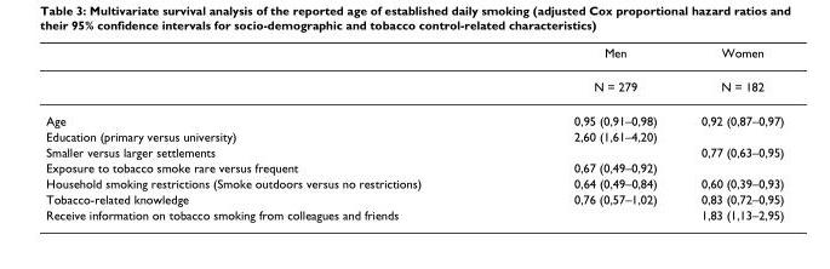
<table><thead><tr><td></td><td>Men</td><td>Women</td></tr></thead><tbody><tr><td></td><td>N = 279</td><td>N = 182</td></tr><tr><td>Age</td><td>0,95 (0,91–0,98)</td><td>0,92 (0,87–0,97)</td></tr><tr><td>Education (primary versus university)</td><td>2,60 (1,61–4,20)</td><td></td></tr><tr><td>Smaller versus larger settlements</td><td></td><td>0,77 (0,63–0,95)</td></tr><tr><td>Exposure to tobacco smoke rare versus frequent</td><td>0,67 (0,49–0,92)</td><td></td></tr><tr><td>Household smoking restrictions (Smoke outdoors versus no restrictions)</td><td>0,64 (0,49–0,84)</td><td>0,60 (0,39–0,93)</td></tr><tr><td>Tobacco-related knowledge</td><td>0,76 (0,57–1,02)</td><td>0,83 (0,72–0,95)</td></tr><tr><td>Receive information on tobacco smoking from colleagues and friends</td><td></td><td>1,83 (1,13–2,95)</td></tr></tbody></table>